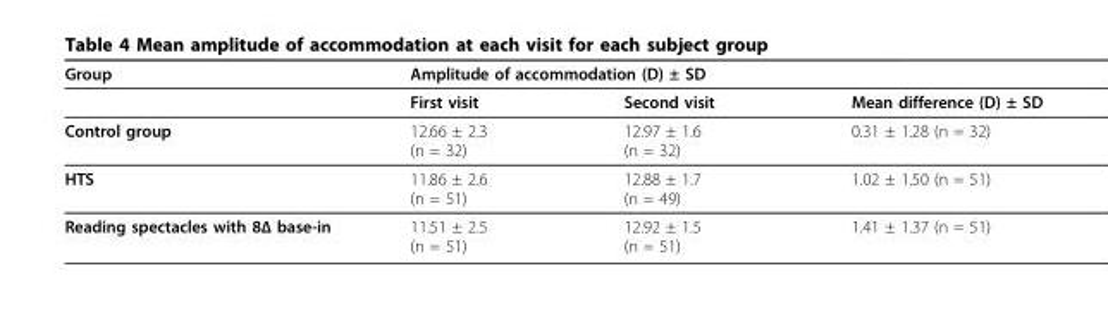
<table><thead><tr><td rowspan="2">Group</td><td colspan="2">Amplitude of accommodation (D) ± SD</td><td rowspan="2">Mean difference (D) ± SD</td></tr><tr><td>First visit</td><td>Second visit</td></tr></thead><tbody><tr><td>Control group</td><td>12.66 ± 2.3 (n = 32)</td><td>12.97 ± 1.6 (n = 32)</td><td>0.31 ± 1.28 (n = 32)</td></tr><tr><td>HTS</td><td>11.86 ± 2.6 (n = 51)</td><td>12.88 ± 1.7 (n = 49)</td><td>1.02 ± 1.50 (n = 51)</td></tr><tr><td>Reading spectacles with 8Δ base-in</td><td>11.51 ± 2.5 (n = 51)</td><td>12.92 ± 1.5 (n = 51)</td><td>1.41 ± 1.37 (n = 51)</td></tr></tbody></table>